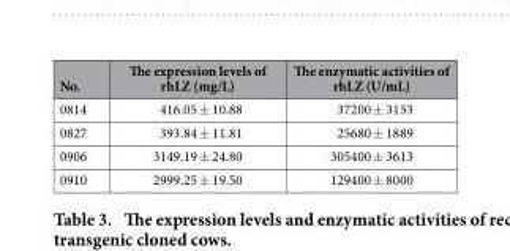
<table><thead><tr><td>No.</td><td>The expression levels of rhLZ (mg/L)</td><td>The enzymatic activities of rhLZ (U/mL)</td></tr></thead><tbody><tr><td>0814</td><td>416.05 ± 10.88</td><td>37200 ± 3153</td></tr><tr><td>0827</td><td>393.84 ± 11.81</td><td>25680 ± 1889</td></tr><tr><td>0906</td><td>3149.19 ± 24.80</td><td>305400 ± 3613</td></tr><tr><td>0910</td><td>2999.25 ± 19.50</td><td>129400 ± 8000</td></tr></tbody></table>